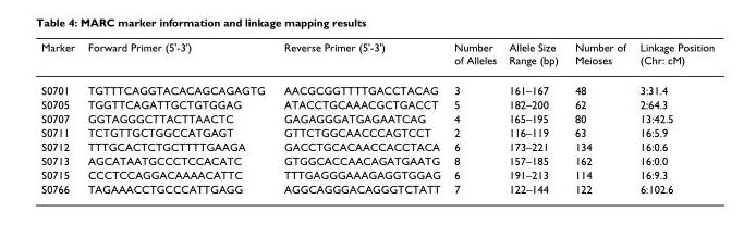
<table><thead><tr><td>Marker</td><td>Forward Primer (5&#x27;-3&#x27;)</td><td>Reverse Primer (5&#x27;-3&#x27;)</td><td>Number of Alleles</td><td>Allele Size Range (bp)</td><td>Number of Meioses</td><td>Linkage Position (Chr: cM)</td></tr></thead><tbody><tr><td>S0701</td><td>TGTTTCAGGTACACAGCAGAGTG</td><td>AACGCGGTTTTGACCTACAG</td><td>3</td><td>161–167</td><td>48</td><td>3:31.4</td></tr><tr><td>S0705</td><td>TGGTTCAGATTGCTGTGGAG</td><td>ATACCTGCAAACGCTGACCT</td><td>5</td><td>182–200</td><td>62</td><td>2:64.3</td></tr><tr><td>S0707</td><td>GGTAGGGCTTACTTAACTC</td><td>GAGAGGGATGAGAATCAG</td><td>4</td><td>165–195</td><td>80</td><td>13:42.5</td></tr><tr><td>S0711</td><td>TCTGTTGCTGGCCATGAGT</td><td>GTTCTGGCAACCCAGTCCT</td><td>2</td><td>116–119</td><td>63</td><td>16:5.9</td></tr><tr><td>S0712</td><td>TTTGCACTCTGCTTTTGAAGA</td><td>GACCTGCACAACCACCTACA</td><td>6</td><td>173–221</td><td>134</td><td>16:0.6</td></tr><tr><td>S0713</td><td>AGCATAATGCCCTCCACATC</td><td>GTGGCACCAACAGATGAATG</td><td>8</td><td>157–185</td><td>162</td><td>16:0.0</td></tr><tr><td>S0715</td><td>CCCTCCAGGACAAAACATTC</td><td>TTTGAGGGAAAGAGGTGGAG</td><td>6</td><td>191–213</td><td>114</td><td>16:9.3</td></tr><tr><td>S0766</td><td>TAGAAACCTGCCCATTGAGG</td><td>AGGCAGGGACAGGGTCTATT</td><td>7</td><td>122–144</td><td>122</td><td>6:102.6</td></tr></tbody></table>